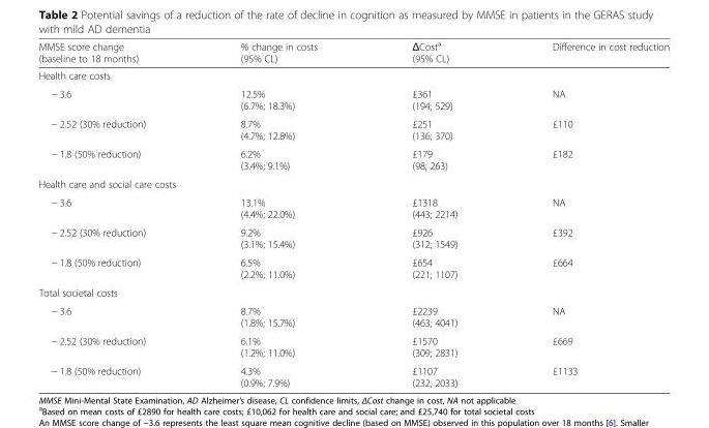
<table><thead><tr><td>MMSE score change (baseline to 18 months)</td><td>% change in costs (95% CL)</td><td>ΔCost<sup>a</sup> (95% CL)</td><td>Difference in cost reduction</td></tr></thead><tbody><tr><td colspan="4">Health care costs</td></tr><tr><td>− 3.6</td><td>12.5% (6.7%; 18.3%)</td><td>£361 (194; 529)</td><td>NA</td></tr><tr><td>− 2.52 (30% reduction)</td><td>8.7% (4.7%; 12.8%)</td><td>£251 (136; 370)</td><td>£110</td></tr><tr><td>− 1.8 (50% reduction)</td><td>6.2% (3.4%; 9.1%)</td><td>£179 (98; 263)</td><td>£182</td></tr><tr><td colspan="4">Health care and social care costs</td></tr><tr><td>− 3.6</td><td>13.1% (4.4%; 22.0%)</td><td>£1318 (443; 2214)</td><td>NA</td></tr><tr><td>− 2.52 (30% reduction)</td><td>9.2% (3.1%; 15.4%)</td><td>£926 (312; 1549)</td><td>£392</td></tr><tr><td>− 1.8 (50% reduction)</td><td>6.5% (2.2%; 11.0%)</td><td>£654 (221; 1107)</td><td>£664</td></tr><tr><td colspan="4">Total societal costs</td></tr><tr><td>− 3.6</td><td>8.7% (1.8%; 15.7%)</td><td>£2239 (463; 4041)</td><td>NA</td></tr><tr><td>− 2.52 (30% reduction)</td><td>6.1% (1.2%; 11.0%)</td><td>£1570 (309; 2831)</td><td>£669</td></tr><tr><td>− 1.8 (50% reduction)</td><td>4.3% (0.9%; 7.9%)</td><td>£1107 (232; 2033)</td><td>£1133</td></tr></tbody></table>